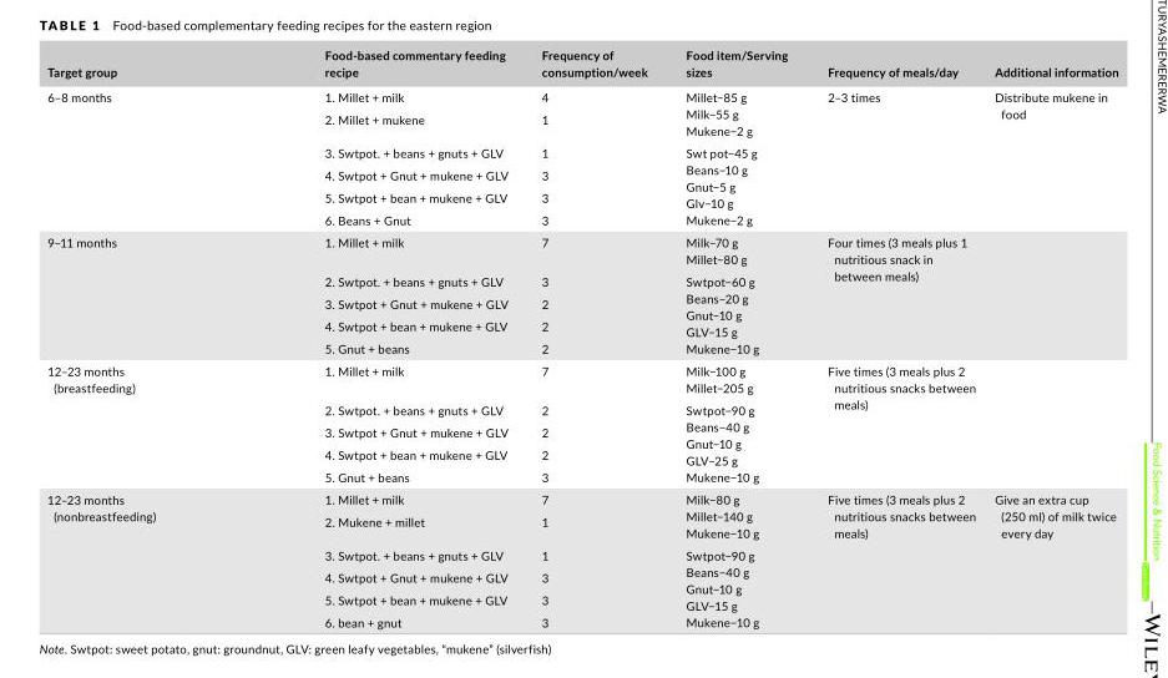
<table><thead><tr><td>Target group</td><td>Food‐based commentary feeding recipe</td><td>Frequency of consumption/week</td><td>Food item/Serving sizes</td><td>Frequency of meals/day</td><td>Additional information</td></tr></thead><tbody><tr><td rowspan="6">6–8 months</td><td>1. Millet + milk</td><td>4</td><td rowspan="2">Millet−85 g Milk−55 g Mukene−2 g</td><td rowspan="6">2–3 times</td><td rowspan="6">Distribute mukene in food</td></tr><tr><td>2. Millet + mukene</td><td>1</td></tr><tr><td>3. Swtpot. + beans + gnuts + GLV</td><td>1</td><td rowspan="4">Swt pot−45 g Beans−10 g Gnut−5 g Glv−10 g Mukene−2 g</td></tr><tr><td>4. Swtpot + Gnut + mukene + GLV</td><td>3</td></tr><tr><td>5. Swtpot + bean + mukene + GLV</td><td>3</td></tr><tr><td>6. Beans + Gnut</td><td>3</td></tr><tr><td rowspan="5">9–11 months</td><td>1. Millet + milk</td><td>7</td><td>Milk−70 g Millet−80 g</td><td rowspan="5">Four times (3 meals plus 1 nutritious snack in between meals)</td><td rowspan="5"></td></tr><tr><td>2. Swtpot. + beans + gnuts + GLV</td><td>3</td><td rowspan="4">Swtpot−60 g Beans−20 g Gnut−10 g GLV−15 g Mukene−10 g</td></tr><tr><td>3. Swtpot + Gnut + mukene + GLV</td><td>2</td></tr><tr><td>4. Swtpot + bean + mukene + GLV</td><td>2</td></tr><tr><td>5. Gnut + beans</td><td>2</td></tr><tr><td rowspan="5">12–23 months (breastfeeding)</td><td>1. Millet + milk</td><td>7</td><td>Milk−100 g Millet−205 g</td><td rowspan="5">Five times (3 meals plus 2 nutritious snacks between meals)</td><td rowspan="5"></td></tr><tr><td>2. Swtpot. + beans + gnuts + GLV</td><td>2</td><td rowspan="4">Swtpot−90 g Beans−40 g Gnut−10 g GLV−25 g Mukene−10 g</td></tr><tr><td>3. Swtpot + Gnut + mukene + GLV</td><td>2</td></tr><tr><td>4. Swtpot + bean + mukene + GLV</td><td>2</td></tr><tr><td>5. Gnut + beans</td><td>3</td></tr><tr><td rowspan="6">12–23 months (nonbreastfeeding)</td><td>1. Millet + milk</td><td>7</td><td rowspan="2">Milk−80 g Millet−140 g Mukene−10 g</td><td rowspan="6">Five times (3 meals plus 2 nutritious snacks between meals)</td><td rowspan="6">Give an extra cup (250 ml) of milk twice every day</td></tr><tr><td>2. Mukene + millet</td><td>1</td></tr><tr><td>3. Swtpot. + beans + gnuts + GLV</td><td>1</td><td rowspan="4">Swtpot−90 g Beans−40 g Gnut−10 g GLV−15 g Mukene−10 g</td></tr><tr><td>4. Swtpot + Gnut + mukene + GLV</td><td>3</td></tr><tr><td>5. Swtpot + bean + mukene + GLV</td><td>3</td></tr><tr><td>6. bean + gnut</td><td>3</td></tr></tbody></table>